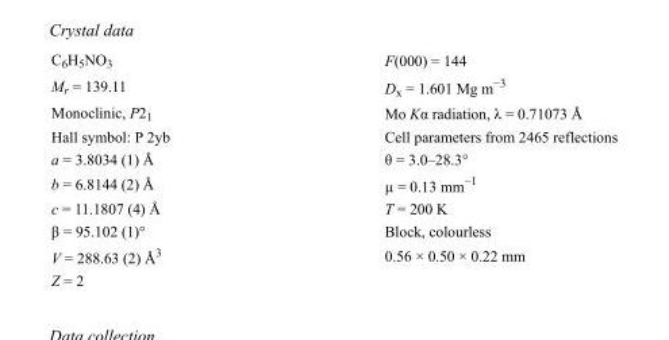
<table><tbody><tr><td>C<sub>6</sub>H<sub>5</sub>NO<sub>3</sub></td><td>F(000) = 144</td></tr><tr><td>M<sub>r</sub> = 139.11</td><td>D<sub>x</sub> = 1.601 Mg m<sup>−3</sup></td></tr><tr><td>Monoclinic, P2<sub>1</sub></td><td>Mo Kα radiation, λ = 0.71073 Å</td></tr><tr><td>Hall symbol: P 2yb</td><td>Cell parameters from 2465 reflections</td></tr><tr><td>a = 3.8034 (1) Å</td><td>θ = 3.0–28.3°</td></tr><tr><td>b = 6.8144 (2) Å</td><td>µ = 0.13 mm<sup>−1</sup></td></tr><tr><td>c = 11.1807 (4) Å</td><td>T = 200 K</td></tr><tr><td>β = 95.102 (1)°</td><td>Block, colourless</td></tr><tr><td>V = 288.63 (2) Å<sup>3</sup></td><td>0.56 × 0.50 × 0.22 mm</td></tr><tr><td>Z = 2</td><td></td></tr></tbody></table>